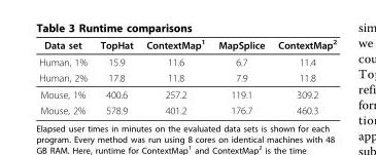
<table><thead><tr><td>Data set</td><td>TopHat</td><td>ContextMap<sup>1</sup></td><td>MapSplice</td><td>ContextMap<sup>2</sup></td></tr></thead><tbody><tr><td>Human, 1%</td><td>15.9</td><td>11.6</td><td>6.7</td><td>11.4</td></tr><tr><td>Human, 2%</td><td>17.8</td><td>11.8</td><td>7.9</td><td>11.8</td></tr><tr><td>Mouse, 1%</td><td>400.6</td><td>257.2</td><td>119.1</td><td>309.2</td></tr><tr><td>Mouse, 2%</td><td>578.9</td><td>401.2</td><td>176.7</td><td>460.3</td></tr></tbody></table>